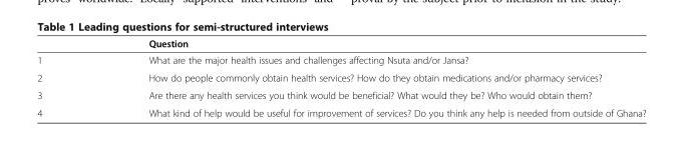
<table><thead><tr><td></td><td>Question</td></tr></thead><tbody><tr><td>1</td><td>What are the major health issues and challenges affecting Nsuta and/or Jansa?</td></tr><tr><td>2</td><td>How do people commonly obtain health services? How do they obtain medications and/or pharmacy services?</td></tr><tr><td>3</td><td>Are there any health services you think would be beneficial? What would they be? Who would obtain them?</td></tr><tr><td>4</td><td>What kind of help would be useful for improvement of services? Do you think any help is needed from outside of Ghana?</td></tr></tbody></table>